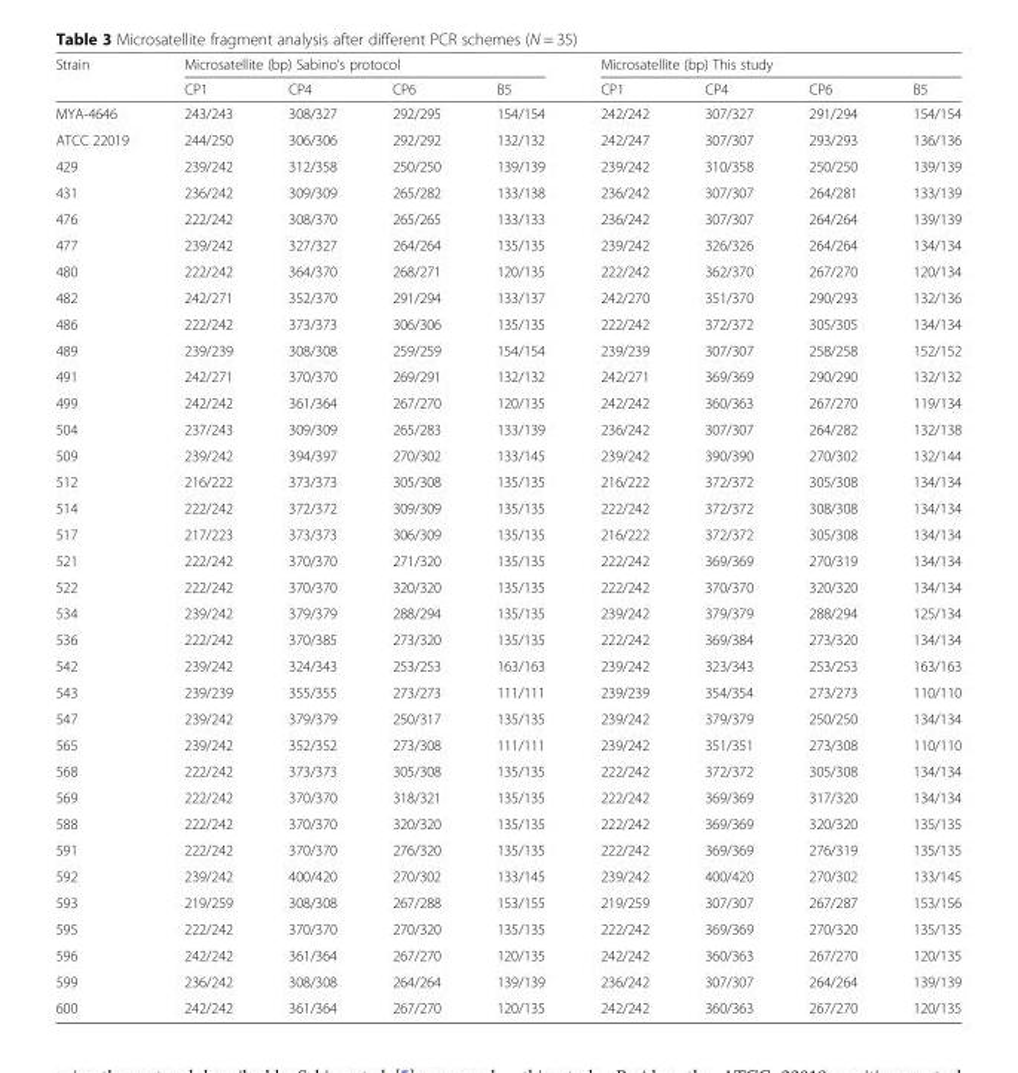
<table><thead><tr><td rowspan="2">Strain</td><td colspan="4">Microsatellite (bp) Sabino’s protocol</td><td colspan="4">Microsatellite (bp) This study</td></tr><tr><td>CP1</td><td>CP4</td><td>CP6</td><td>B5</td><td>CP1</td><td>CP4</td><td>CP6</td><td>B5</td></tr></thead><tbody><tr><td>MYA-4646</td><td>243/243</td><td>308/327</td><td>292/295</td><td>154/154</td><td>242/242</td><td>307/327</td><td>291/294</td><td>154/154</td></tr><tr><td>ATCC 22019</td><td>244/250</td><td>306/306</td><td>292/292</td><td>132/132</td><td>242/247</td><td>307/307</td><td>293/293</td><td>136/136</td></tr><tr><td>429</td><td>239/242</td><td>312/358</td><td>250/250</td><td>139/139</td><td>239/242</td><td>310/358</td><td>250/250</td><td>139/139</td></tr><tr><td>431</td><td>236/242</td><td>309/309</td><td>265/282</td><td>133/138</td><td>236/242</td><td>307/307</td><td>264/281</td><td>133/139</td></tr><tr><td>476</td><td>222/242</td><td>308/370</td><td>265/265</td><td>133/133</td><td>236/242</td><td>307/307</td><td>264/264</td><td>139/139</td></tr><tr><td>477</td><td>239/242</td><td>327/327</td><td>264/264</td><td>135/135</td><td>239/242</td><td>326/326</td><td>264/264</td><td>134/134</td></tr><tr><td>480</td><td>222/242</td><td>364/370</td><td>268/271</td><td>120/135</td><td>222/242</td><td>362/370</td><td>267/270</td><td>120/134</td></tr><tr><td>482</td><td>242/271</td><td>352/370</td><td>291/294</td><td>133/137</td><td>242/270</td><td>351/370</td><td>290/293</td><td>132/136</td></tr><tr><td>486</td><td>222/242</td><td>373/373</td><td>306/306</td><td>135/135</td><td>222/242</td><td>372/372</td><td>305/305</td><td>134/134</td></tr><tr><td>489</td><td>239/239</td><td>308/308</td><td>259/259</td><td>154/154</td><td>239/239</td><td>307/307</td><td>258/258</td><td>152/152</td></tr><tr><td>491</td><td>242/271</td><td>370/370</td><td>269/291</td><td>132/132</td><td>242/271</td><td>369/369</td><td>290/290</td><td>132/132</td></tr><tr><td>499</td><td>242/242</td><td>361/364</td><td>267/270</td><td>120/135</td><td>242/242</td><td>360/363</td><td>267/270</td><td>119/134</td></tr><tr><td>504</td><td>237/243</td><td>309/309</td><td>265/283</td><td>133/139</td><td>236/242</td><td>307/307</td><td>264/282</td><td>132/138</td></tr><tr><td>509</td><td>239/242</td><td>394/397</td><td>270/302</td><td>133/145</td><td>239/242</td><td>390/390</td><td>270/302</td><td>132/144</td></tr><tr><td>512</td><td>216/222</td><td>373/373</td><td>305/308</td><td>135/135</td><td>216/222</td><td>372/372</td><td>305/308</td><td>134/134</td></tr><tr><td>514</td><td>222/242</td><td>372/372</td><td>309/309</td><td>135/135</td><td>222/242</td><td>372/372</td><td>308/308</td><td>134/134</td></tr><tr><td>517</td><td>217/223</td><td>373/373</td><td>306/309</td><td>135/135</td><td>216/222</td><td>372/372</td><td>305/308</td><td>134/134</td></tr><tr><td>521</td><td>222/242</td><td>370/370</td><td>271/320</td><td>135/135</td><td>222/242</td><td>369/369</td><td>270/319</td><td>134/134</td></tr><tr><td>522</td><td>222/242</td><td>370/370</td><td>320/320</td><td>135/135</td><td>222/242</td><td>370/370</td><td>320/320</td><td>134/134</td></tr><tr><td>534</td><td>239/242</td><td>379/379</td><td>288/294</td><td>135/135</td><td>239/242</td><td>379/379</td><td>288/294</td><td>125/134</td></tr><tr><td>536</td><td>222/242</td><td>370/385</td><td>273/320</td><td>135/135</td><td>222/242</td><td>369/384</td><td>273/320</td><td>134/134</td></tr><tr><td>542</td><td>239/242</td><td>324/343</td><td>253/253</td><td>163/163</td><td>239/242</td><td>323/343</td><td>253/253</td><td>163/163</td></tr><tr><td>543</td><td>239/239</td><td>355/355</td><td>273/273</td><td>111/111</td><td>239/239</td><td>354/354</td><td>273/273</td><td>110/110</td></tr><tr><td>547</td><td>239/242</td><td>379/379</td><td>250/317</td><td>135/135</td><td>239/242</td><td>379/379</td><td>250/250</td><td>134/134</td></tr><tr><td>565</td><td>239/242</td><td>352/352</td><td>273/308</td><td>111/111</td><td>239/242</td><td>351/351</td><td>273/308</td><td>110/110</td></tr><tr><td>568</td><td>222/242</td><td>373/373</td><td>305/308</td><td>135/135</td><td>222/242</td><td>372/372</td><td>305/308</td><td>134/134</td></tr><tr><td>569</td><td>222/242</td><td>370/370</td><td>318/321</td><td>135/135</td><td>222/242</td><td>369/369</td><td>317/320</td><td>134/134</td></tr><tr><td>588</td><td>222/242</td><td>370/370</td><td>320/320</td><td>135/135</td><td>222/242</td><td>369/369</td><td>320/320</td><td>135/135</td></tr><tr><td>591</td><td>222/242</td><td>370/370</td><td>276/320</td><td>135/135</td><td>222/242</td><td>369/369</td><td>276/319</td><td>135/135</td></tr><tr><td>592</td><td>239/242</td><td>400/420</td><td>270/302</td><td>133/145</td><td>239/242</td><td>400/420</td><td>270/302</td><td>133/145</td></tr><tr><td>593</td><td>219/259</td><td>308/308</td><td>267/288</td><td>153/155</td><td>219/259</td><td>307/307</td><td>267/287</td><td>153/156</td></tr><tr><td>595</td><td>222/242</td><td>370/370</td><td>270/320</td><td>135/135</td><td>222/242</td><td>369/369</td><td>270/320</td><td>135/135</td></tr><tr><td>596</td><td>242/242</td><td>361/364</td><td>267/270</td><td>120/135</td><td>242/242</td><td>360/363</td><td>267/270</td><td>120/135</td></tr><tr><td>599</td><td>236/242</td><td>308/308</td><td>264/264</td><td>139/139</td><td>236/242</td><td>307/307</td><td>264/264</td><td>139/139</td></tr><tr><td>600</td><td>242/242</td><td>361/364</td><td>267/270</td><td>120/135</td><td>242/242</td><td>360/363</td><td>267/270</td><td>120/135</td></tr></tbody></table>